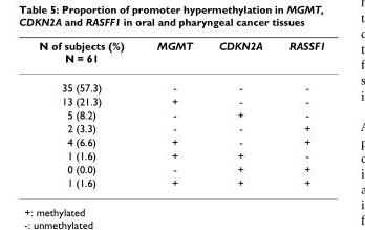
<table><thead><tr><td>N of subjects (%) N = 61</td><td>MGMT</td><td>CDKN2A</td><td>RASSF1</td></tr></thead><tbody><tr><td>35 (57.3)</td><td>-</td><td>-</td><td>-</td></tr><tr><td>13 (21.3)</td><td>+</td><td>-</td><td>-</td></tr><tr><td>5 (8.2)</td><td>-</td><td>+</td><td>-</td></tr><tr><td>2 (3.3)</td><td>-</td><td>-</td><td>+</td></tr><tr><td>4 (6.6)</td><td>+</td><td>-</td><td>+</td></tr><tr><td>1 (1.6)</td><td>+</td><td>+</td><td>-</td></tr><tr><td>0 (0.0)</td><td>-</td><td>+</td><td>+</td></tr><tr><td>1 (1.6)</td><td>+</td><td>+</td><td>+</td></tr></tbody></table>